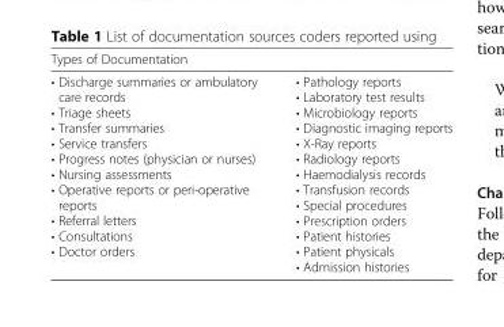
<table><thead><tr><td colspan="2">Types of Documentation</td></tr><tr><td>• Discharge summaries or ambulatory care records • Triage sheets • Transfer summaries • Service transfers • Progress notes (physician or nurses) • Nursing assessments • Operative reports or peri-operative reports • Referral letters • Consultations • Doctor orders</td><td>• Pathology reports • Laboratory test results • Microbiology reports • Diagnostic imaging reports • X-Ray reports • Radiology reports • Haemodialysis records • Transfusion records • Special procedures • Prescription orders • Patient histories • Patient physicals • Admission histories</td></tr></thead><tbody></tbody></table>